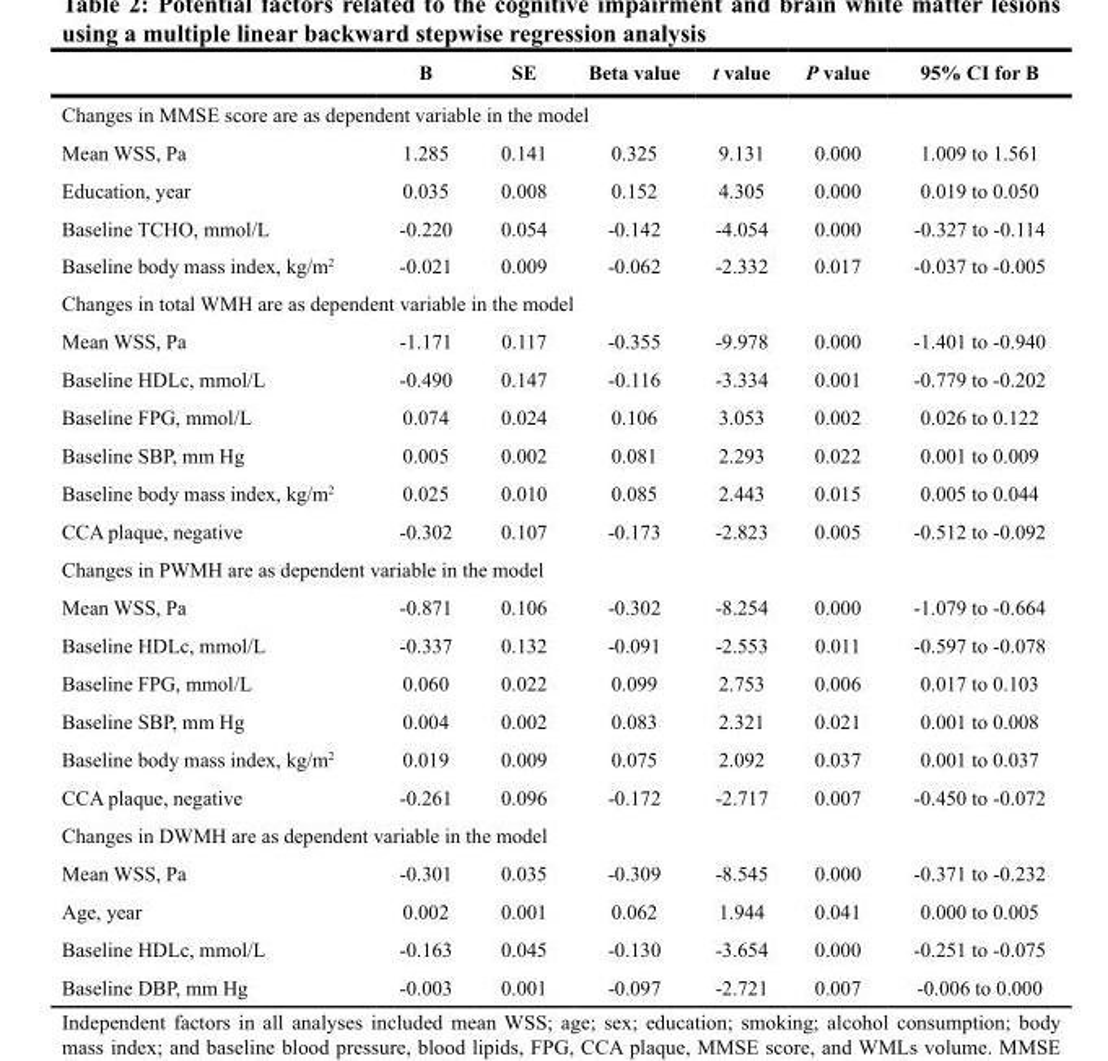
<table><thead><tr><td></td><td>B</td><td>SE</td><td>Beta value</td><td>t value</td><td>P value</td><td>95% CI for B</td></tr></thead><tbody><tr><td colspan="7">Changes in MMSE score are as dependent variable in the model</td></tr><tr><td>Mean WSS, Pa</td><td>1.285</td><td>0.141</td><td>0.325</td><td>9.131</td><td>0.000</td><td>1.009 to 1.561</td></tr><tr><td>Education, year</td><td>0.035</td><td>0.008</td><td>0.152</td><td>4.305</td><td>0.000</td><td>0.019 to 0.050</td></tr><tr><td>Baseline TCHO, mmol/L</td><td>-0.220</td><td>0.054</td><td>-0.142</td><td>-4.054</td><td>0.000</td><td>-0.327 to -0.114</td></tr><tr><td>Baseline body mass index, kg/m<sup>2</sup></td><td>-0.021</td><td>0.009</td><td>-0.062</td><td>-2.332</td><td>0.017</td><td>-0.037 to -0.005</td></tr><tr><td colspan="7">Changes in total WMH are as dependent variable in the model</td></tr><tr><td>Mean WSS, Pa</td><td>-1.171</td><td>0.117</td><td>-0.355</td><td>-9.978</td><td>0.000</td><td>-1.401 to -0.940</td></tr><tr><td>Baseline HDLc, mmol/L</td><td>-0.490</td><td>0.147</td><td>-0.116</td><td>-3.334</td><td>0.001</td><td>-0.779 to -0.202</td></tr><tr><td>Baseline FPG, mmol/L</td><td>0.074</td><td>0.024</td><td>0.106</td><td>3.053</td><td>0.002</td><td>0.026 to 0.122</td></tr><tr><td>Baseline SBP, mm Hg</td><td>0.005</td><td>0.002</td><td>0.081</td><td>2.293</td><td>0.022</td><td>0.001 to 0.009</td></tr><tr><td>Baseline body mass index, kg/m<sup>2</sup></td><td>0.025</td><td>0.010</td><td>0.085</td><td>2.443</td><td>0.015</td><td>0.005 to 0.044</td></tr><tr><td>CCA plaque, negative</td><td>-0.302</td><td>0.107</td><td>-0.173</td><td>-2.823</td><td>0.005</td><td>-0.512 to -0.092</td></tr><tr><td colspan="7">Changes in PWMH are as dependent variable in the model</td></tr><tr><td>Mean WSS, Pa</td><td>-0.871</td><td>0.106</td><td>-0.302</td><td>-8.254</td><td>0.000</td><td>-1.079 to -0.664</td></tr><tr><td>Baseline HDLc, mmol/L</td><td>-0.337</td><td>0.132</td><td>-0.091</td><td>-2.553</td><td>0.011</td><td>-0.597 to -0.078</td></tr><tr><td>Baseline FPG, mmol/L</td><td>0.060</td><td>0.022</td><td>0.099</td><td>2.753</td><td>0.006</td><td>0.017 to 0.103</td></tr><tr><td>Baseline SBP, mm Hg</td><td>0.004</td><td>0.002</td><td>0.083</td><td>2.321</td><td>0.021</td><td>0.001 to 0.008</td></tr><tr><td>Baseline body mass index, kg/m<sup>2</sup></td><td>0.019</td><td>0.009</td><td>0.075</td><td>2.092</td><td>0.037</td><td>0.001 to 0.037</td></tr><tr><td>CCA plaque, negative</td><td>-0.261</td><td>0.096</td><td>-0.172</td><td>-2.717</td><td>0.007</td><td>-0.450 to -0.072</td></tr><tr><td colspan="7">Changes in DWMH are as dependent variable in the model</td></tr><tr><td>Mean WSS, Pa</td><td>-0.301</td><td>0.035</td><td>-0.309</td><td>-8.545</td><td>0.000</td><td>-0.371 to -0.232</td></tr><tr><td>Age, year</td><td>0.002</td><td>0.001</td><td>0.062</td><td>1.944</td><td>0.041</td><td>0.000 to 0.005</td></tr><tr><td>Baseline HDLc, mmol/L</td><td>-0.163</td><td>0.045</td><td>-0.130</td><td>-3.654</td><td>0.000</td><td>-0.251 to -0.075</td></tr><tr><td>Baseline DBP, mm Hg</td><td>-0.003</td><td>0.001</td><td>-0.097</td><td>-2.721</td><td>0.007</td><td>-0.006 to 0.000</td></tr></tbody></table>